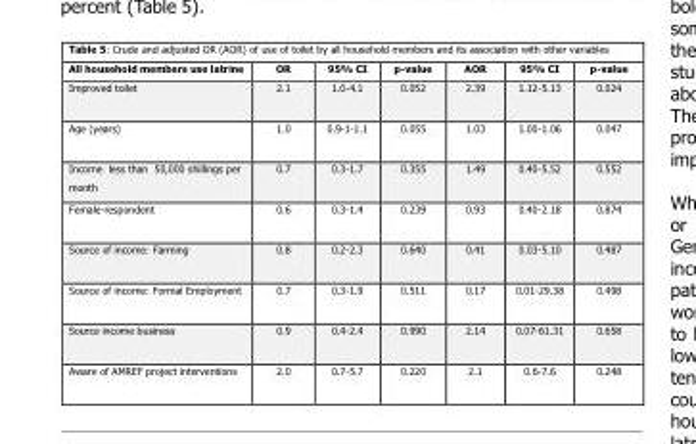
<table><thead><tr><td>All household members use latrine</td><td>OR</td><td>95% CI</td><td>p-value</td><td>AOR</td><td>95% CI</td><td>p-value</td></tr></thead><tbody><tr><td>Improved toilet</td><td>2.1</td><td>1.0-4.1</td><td>0.052</td><td>2.39</td><td>1.12-5.13</td><td>0.024</td></tr><tr><td>Age (years)</td><td>1.0</td><td>0.9-1-1.1</td><td>0.055</td><td>1.03</td><td>1.00-1.06</td><td>0.047</td></tr><tr><td>Income less than 50,000 shillings per month</td><td>0.7</td><td>0.3-1.7</td><td>0.355</td><td>1.49</td><td>0.40-5.52</td><td>0.552</td></tr><tr><td>Female-respondent</td><td>0.6</td><td>0.3-1.4</td><td>0.239</td><td>0.93</td><td>0.40-2.18</td><td>0.874</td></tr><tr><td>Source of income: Farming</td><td>0.8</td><td>0.2-2.3</td><td>0.640</td><td>0.41</td><td>0.03-5.10</td><td>0.487</td></tr><tr><td>Source of income: Formal Employment</td><td>0.7</td><td>0.3-1.9</td><td>0.511</td><td>0.17</td><td>0.01-29.38</td><td>0.498</td></tr><tr><td>Source income business</td><td>0.9</td><td>0.4-2.4</td><td>0.990</td><td>2.14</td><td>0.07-61.31</td><td>0.658</td></tr><tr><td>Aware of AMREF project interventions</td><td>2.0</td><td>0.7-5.7</td><td>0.220</td><td>2.1</td><td>0.6-7.6</td><td>0.248</td></tr></tbody></table>